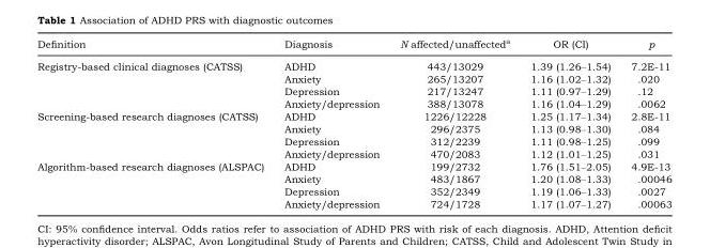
<table><thead><tr><td>Definition</td><td>Diagnosis</td><td>N affected/unaffected<sup>a</sup></td><td>OR (CI)</td><td>p</td></tr></thead><tbody><tr><td rowspan="4">Registry-based clinical diagnoses (CATSS)</td><td>ADHD</td><td>443/13029</td><td>1.39 (1.26–1.54)</td><td>7.2E-11</td></tr><tr><td>Anxiety</td><td>265/13207</td><td>1.16 (1.02–1.32)</td><td>.020</td></tr><tr><td>Depression</td><td>217/13247</td><td>1.11 (0.97–1.29)</td><td>.12</td></tr><tr><td>Anxiety/depression</td><td>388/13078</td><td>1.16 (1.04–1.29)</td><td>.0062</td></tr><tr><td rowspan="4">Screening-based research diagnoses (CATSS)</td><td>ADHD</td><td>1226/12228</td><td>1.25 (1.17–1.34)</td><td>2.8E-11</td></tr><tr><td>Anxiety</td><td>296/2375</td><td>1.13 (0.98–1.30)</td><td>.084</td></tr><tr><td>Depression</td><td>312/2239</td><td>1.11 (0.98–1.25)</td><td>.099</td></tr><tr><td>Anxiety/depression</td><td>470/2083</td><td>1.12 (1.01–1.25)</td><td>.031</td></tr><tr><td rowspan="4">Algorithm-based research diagnoses (ALSPAC)</td><td>ADHD</td><td>199/2732</td><td>1.76 (1.51–2.05)</td><td>4.9E-13</td></tr><tr><td>Anxiety</td><td>483/1867</td><td>1.20 (1.08–1.33)</td><td>.00046</td></tr><tr><td>Depression</td><td>352/2349</td><td>1.19 (1.06–1.33)</td><td>.0027</td></tr><tr><td>Anxiety/depression</td><td>724/1728</td><td>1.17 (1.07–1.27)</td><td>.00063</td></tr></tbody></table>